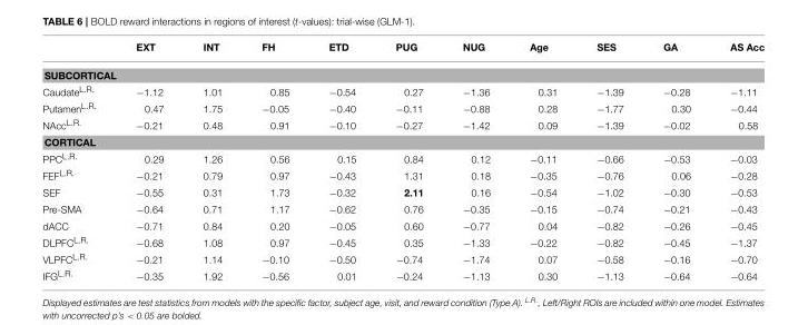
<table><thead><tr><td></td><td>EXT</td><td>INT</td><td>FH</td><td>ETD</td><td>PUG</td><td>NUG</td><td>Age</td><td>SES</td><td>GA</td><td>AS Acc</td></tr></thead><tbody><tr><td colspan="11">SUBCORTICAL</td></tr><tr><td>Caudate<sup>L.R.</sup></td><td>−1.12</td><td>1.01</td><td>0.85</td><td>−0.54</td><td>0.27</td><td>−1.36</td><td>0.31</td><td>−1.39</td><td>−0.28</td><td>−1.11</td></tr><tr><td>Putamen<sup>L.R.</sup></td><td>0.47</td><td>1.75</td><td>−0.05</td><td>−0.40</td><td>−0.11</td><td>−0.88</td><td>0.28</td><td>−1.77</td><td>0.30</td><td>−0.44</td></tr><tr><td>NAcc<sup>L.R.</sup></td><td>−0.21</td><td>0.48</td><td>0.91</td><td>−0.10</td><td>−0.27</td><td>−1.42</td><td>0.09</td><td>−1.39</td><td>−0.02</td><td>0.58</td></tr><tr><td colspan="11">CORTICAL</td></tr><tr><td>PPC<sup>L.R.</sup></td><td>0.29</td><td>1.26</td><td>0.56</td><td>0.15</td><td>0.84</td><td>0.12</td><td>−0.11</td><td>−0.66</td><td>−0.53</td><td>−0.03</td></tr><tr><td>FEF<sup>L.R.</sup></td><td>−0.21</td><td>0.79</td><td>0.97</td><td>−0.43</td><td>1.31</td><td>0.18</td><td>−0.35</td><td>−0.76</td><td>0.06</td><td>−0.28</td></tr><tr><td>SEF</td><td>−0.55</td><td>0.31</td><td>1.73</td><td>−0.32</td><td>2.11</td><td>0.16</td><td>−0.54</td><td>−1.02</td><td>−0.30</td><td>−0.53</td></tr><tr><td>Pre-SMA</td><td>−0.64</td><td>0.71</td><td>1.17</td><td>−0.62</td><td>0.76</td><td>−0.35</td><td>−0.15</td><td>−0.74</td><td>−0.21</td><td>−0.43</td></tr><tr><td>dACC</td><td>−0.71</td><td>0.84</td><td>0.20</td><td>−0.05</td><td>0.60</td><td>−0.77</td><td>0.04</td><td>−0.82</td><td>−0.26</td><td>−0.45</td></tr><tr><td>DLPFC<sup>L.R.</sup></td><td>−0.68</td><td>1.08</td><td>0.97</td><td>−0.45</td><td>0.35</td><td>−1.33</td><td>−0.22</td><td>−0.82</td><td>−0.45</td><td>−1.37</td></tr><tr><td>VLPFC<sup>L.R.</sup></td><td>−0.21</td><td>1.14</td><td>−0.10</td><td>−0.50</td><td>−0.74</td><td>−1.74</td><td>0.07</td><td>−0.58</td><td>−0.16</td><td>−0.70</td></tr><tr><td>IFG<sup>L.R.</sup></td><td>−0.35</td><td>1.92</td><td>−0.56</td><td>0.01</td><td>−0.24</td><td>−1.13</td><td>0.30</td><td>−1.13</td><td>−0.64</td><td>−0.64</td></tr></tbody></table>